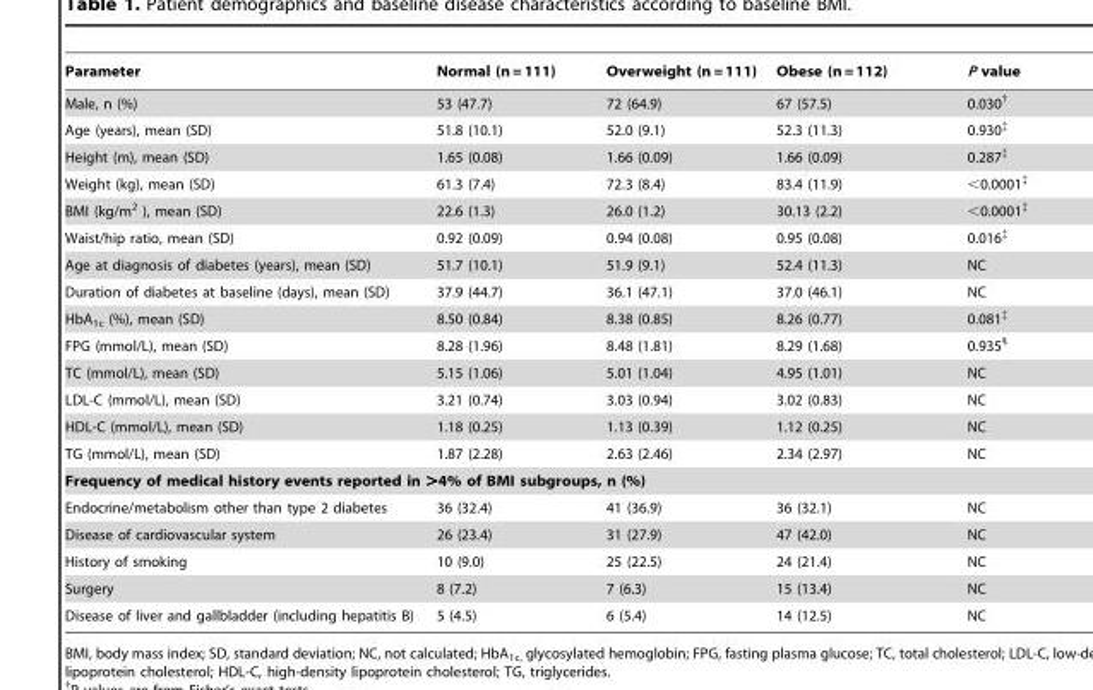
<table><thead><tr><td>Parameter</td><td>Normal (n = 111)</td><td>Overweight (n = 111)</td><td>Obese (n = 112)</td><td>P value</td></tr></thead><tbody><tr><td>Male, n (%)</td><td>53 (47.7)</td><td>72 (64.9)</td><td>67 (57.5)</td><td>0.030†</td></tr><tr><td>Age (years), mean (SD)</td><td>51.8 (10.1)</td><td>52.0 (9.1)</td><td>52.3 (11.3)</td><td>0.930‡</td></tr><tr><td>Height (m), mean (SD)</td><td>1.65 (0.08)</td><td>1.66 (0.09)</td><td>1.66 (0.09)</td><td>0.287‡</td></tr><tr><td>Weight (kg), mean (SD)</td><td>61.3 (7.4)</td><td>72.3 (8.4)</td><td>83.4 (11.9)</td><td>&lt;0.0001‡</td></tr><tr><td>BMI (kg/m<sup>2</sup> ), mean (SD)</td><td>22.6 (1.3)</td><td>26.0 (1.2)</td><td>30.13 (2.2)</td><td>&lt;0.0001‡</td></tr><tr><td>Waist/hip ratio, mean (SD)</td><td>0.92 (0.09)</td><td>0.94 (0.08)</td><td>0.95 (0.08)</td><td>0.016‡</td></tr><tr><td>Age at diagnosis of diabetes (years), mean (SD)</td><td>51.7 (10.1)</td><td>51.9 (9.1)</td><td>52.4 (11.3)</td><td>NC</td></tr><tr><td>Duration of diabetes at baseline (days), mean (SD)</td><td>37.9 (44.7)</td><td>36.1 (47.1)</td><td>37.0 (46.1)</td><td>NC</td></tr><tr><td>HbA<sub>1c</sub> (%), mean (SD)</td><td>8.50 (0.84)</td><td>8.38 (0.85)</td><td>8.26 (0.77)</td><td>0.081‡</td></tr><tr><td>FPG (mmol/L), mean (SD)</td><td>8.28 (1.96)</td><td>8.48 (1.81)</td><td>8.29 (1.68)</td><td>0.935§</td></tr><tr><td>TC (mmol/L), mean (SD)</td><td>5.15 (1.06)</td><td>5.01 (1.04)</td><td>4.95 (1.01)</td><td>NC</td></tr><tr><td>LDL-C (mmol/L), mean (SD)</td><td>3.21 (0.74)</td><td>3.03 (0.94)</td><td>3.02 (0.83)</td><td>NC</td></tr><tr><td>HDL-C (mmol/L), mean (SD)</td><td>1.18 (0.25)</td><td>1.13 (0.39)</td><td>1.12 (0.25)</td><td>NC</td></tr><tr><td>TG (mmol/L), mean (SD)</td><td>1.87 (2.28)</td><td>2.63 (2.46)</td><td>2.34 (2.97)</td><td>NC</td></tr><tr><td colspan="5">Frequency of medical history events reported in &gt;4% of BMI subgroups, n (%)</td></tr><tr><td>Endocrine/metabolism other than type 2 diabetes</td><td>36 (32.4)</td><td>41 (36.9)</td><td>36 (32.1)</td><td>NC</td></tr><tr><td>Disease of cardiovascular system</td><td>26 (23.4)</td><td>31 (27.9)</td><td>47 (42.0)</td><td>NC</td></tr><tr><td>History of smoking</td><td>10 (9.0)</td><td>25 (22.5)</td><td>24 (21.4)</td><td>NC</td></tr><tr><td>Surgery</td><td>8 (7.2)</td><td>7 (6.3)</td><td>15 (13.4)</td><td>NC</td></tr><tr><td>Disease of liver and gallbladder (including hepatitis B)</td><td>5 (4.5)</td><td>6 (5.4)</td><td>14 (12.5)</td><td>NC</td></tr></tbody></table>